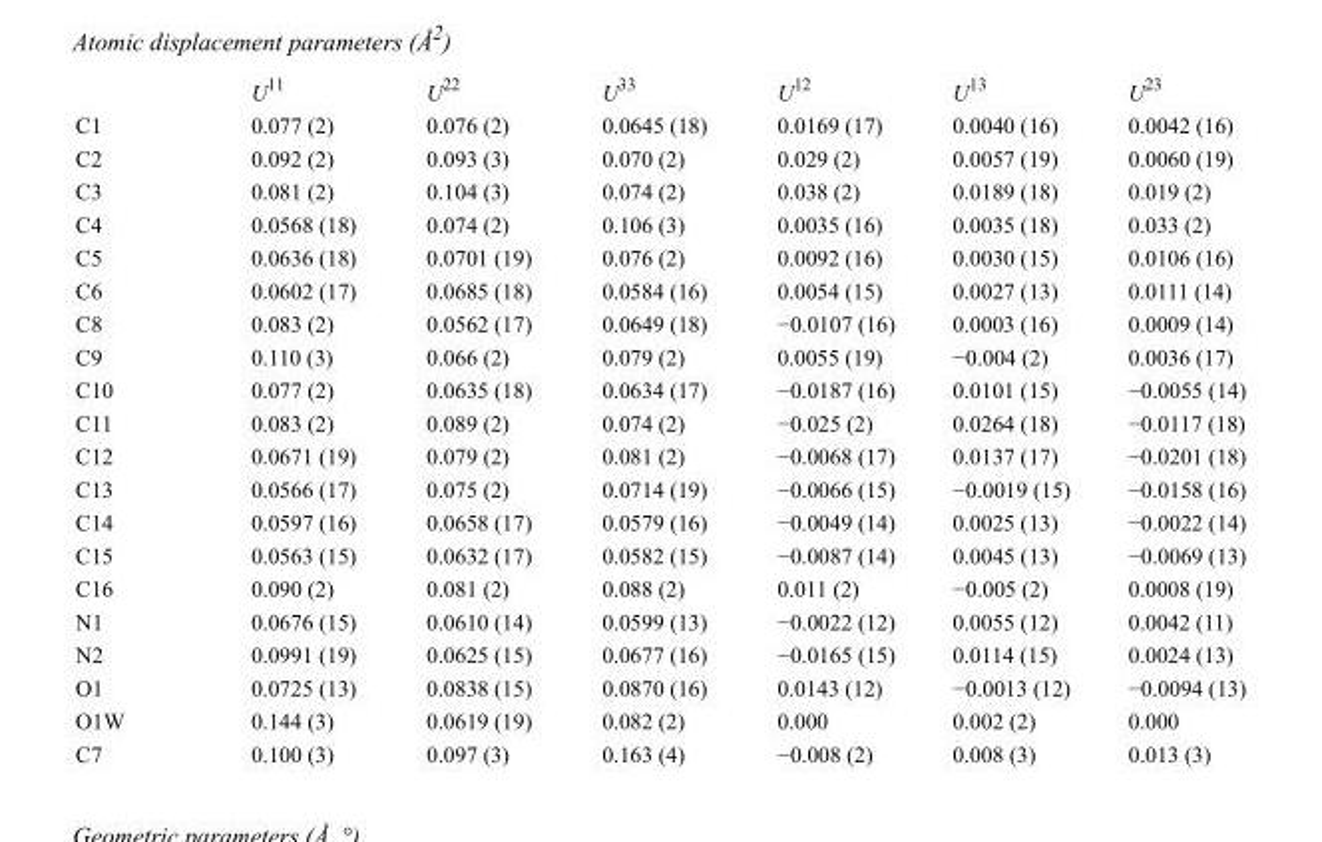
<table><thead><tr><td></td><td>U<sup>11</sup></td><td>U<sup>22</sup></td><td>U<sup>33</sup></td><td>U<sup>12</sup></td><td>U<sup>13</sup></td><td>U<sup>23</sup></td></tr></thead><tbody><tr><td>C1</td><td>0.077 (2)</td><td>0.076 (2)</td><td>0.0645 (18)</td><td>0.0169 (17)</td><td>0.0040 (16)</td><td>0.0042 (16)</td></tr><tr><td>C2</td><td>0.092 (2)</td><td>0.093 (3)</td><td>0.070 (2)</td><td>0.029 (2)</td><td>0.0057 (19)</td><td>0.0060 (19)</td></tr><tr><td>C3</td><td>0.081 (2)</td><td>0.104 (3)</td><td>0.074 (2)</td><td>0.038 (2)</td><td>0.0189 (18)</td><td>0.019 (2)</td></tr><tr><td>C4</td><td>0.0568 (18)</td><td>0.074 (2)</td><td>0.106 (3)</td><td>0.0035 (16)</td><td>0.0035 (18)</td><td>0.033 (2)</td></tr><tr><td>C5</td><td>0.0636 (18)</td><td>0.0701 (19)</td><td>0.076 (2)</td><td>0.0092 (16)</td><td>0.0030 (15)</td><td>0.0106 (16)</td></tr><tr><td>C6</td><td>0.0602 (17)</td><td>0.0685 (18)</td><td>0.0584 (16)</td><td>0.0054 (15)</td><td>0.0027 (13)</td><td>0.0111 (14)</td></tr><tr><td>C8</td><td>0.083 (2)</td><td>0.0562 (17)</td><td>0.0649 (18)</td><td>−0.0107 (16)</td><td>0.0003 (16)</td><td>0.0009 (14)</td></tr><tr><td>C9</td><td>0.110 (3)</td><td>0.066 (2)</td><td>0.079 (2)</td><td>0.0055 (19)</td><td>−0.004 (2)</td><td>0.0036 (17)</td></tr><tr><td>C10</td><td>0.077 (2)</td><td>0.0635 (18)</td><td>0.0634 (17)</td><td>−0.0187 (16)</td><td>0.0101 (15)</td><td>−0.0055 (14)</td></tr><tr><td>C11</td><td>0.083 (2)</td><td>0.089 (2)</td><td>0.074 (2)</td><td>−0.025 (2)</td><td>0.0264 (18)</td><td>−0.0117 (18)</td></tr><tr><td>C12</td><td>0.0671 (19)</td><td>0.079 (2)</td><td>0.081 (2)</td><td>−0.0068 (17)</td><td>0.0137 (17)</td><td>−0.0201 (18)</td></tr><tr><td>C13</td><td>0.0566 (17)</td><td>0.075 (2)</td><td>0.0714 (19)</td><td>−0.0066 (15)</td><td>−0.0019 (15)</td><td>−0.0158 (16)</td></tr><tr><td>C14</td><td>0.0597 (16)</td><td>0.0658 (17)</td><td>0.0579 (16)</td><td>−0.0049 (14)</td><td>0.0025 (13)</td><td>−0.0022 (14)</td></tr><tr><td>C15</td><td>0.0563 (15)</td><td>0.0632 (17)</td><td>0.0582 (15)</td><td>−0.0087 (14)</td><td>0.0045 (13)</td><td>−0.0069 (13)</td></tr><tr><td>C16</td><td>0.090 (2)</td><td>0.081 (2)</td><td>0.088 (2)</td><td>0.011 (2)</td><td>−0.005 (2)</td><td>0.0008 (19)</td></tr><tr><td>N1</td><td>0.0676 (15)</td><td>0.0610 (14)</td><td>0.0599 (13)</td><td>−0.0022 (12)</td><td>0.0055 (12)</td><td>0.0042 (11)</td></tr><tr><td>N2</td><td>0.0991 (19)</td><td>0.0625 (15)</td><td>0.0677 (16)</td><td>−0.0165 (15)</td><td>0.0114 (15)</td><td>0.0024 (13)</td></tr><tr><td>O1</td><td>0.0725 (13)</td><td>0.0838 (15)</td><td>0.0870 (16)</td><td>0.0143 (12)</td><td>−0.0013 (12)</td><td>−0.0094 (13)</td></tr><tr><td>O1W</td><td>0.144 (3)</td><td>0.0619 (19)</td><td>0.082 (2)</td><td>0.000</td><td>0.002 (2)</td><td>0.000</td></tr><tr><td>C7</td><td>0.100 (3)</td><td>0.097 (3)</td><td>0.163 (4)</td><td>−0.008 (2)</td><td>0.008 (3)</td><td>0.013 (3)</td></tr></tbody></table>